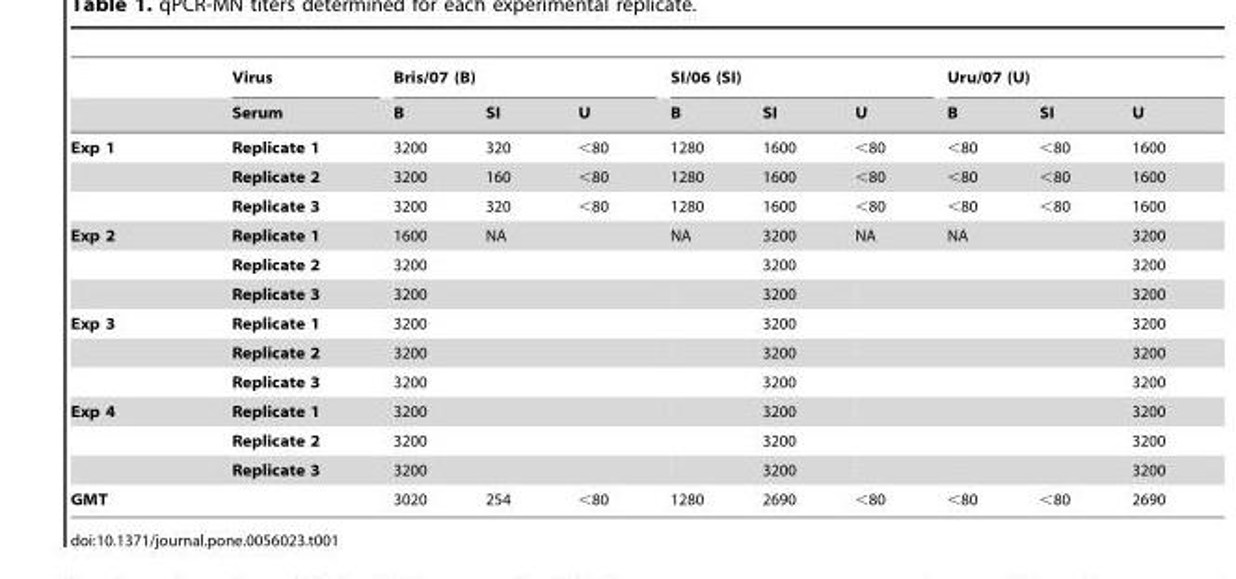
<table><thead><tr><td rowspan="2"></td><td rowspan="2">Virus Serum</td><td colspan="3">Bris/07 (B)</td><td colspan="3">SI/06 (SI)</td><td colspan="3">Uru/07 (U)</td></tr><tr><td>B</td><td>SI</td><td>U</td><td>B</td><td>SI</td><td>U</td><td>B</td><td>SI</td><td>U</td></tr></thead><tbody><tr><td rowspan="3">Exp 1</td><td>Replicate 1</td><td>3200</td><td>320</td><td>&lt;80</td><td>1280</td><td>1600</td><td>&lt;80</td><td>&lt;80</td><td>&lt;80</td><td>1600</td></tr><tr><td>Replicate 2</td><td>3200</td><td>160</td><td>&lt;80</td><td>1280</td><td>1600</td><td>&lt;80</td><td>&lt;80</td><td>&lt;80</td><td>1600</td></tr><tr><td>Replicate 3</td><td>3200</td><td>320</td><td>&lt;80</td><td>1280</td><td>1600</td><td>&lt;80</td><td>&lt;80</td><td>&lt;80</td><td>1600</td></tr><tr><td rowspan="3">Exp 2</td><td>Replicate 1</td><td>1600</td><td colspan="2">NA</td><td>NA</td><td>3200</td><td>NA</td><td colspan="2">NA</td><td>3200</td></tr><tr><td>Replicate 2</td><td>3200</td><td colspan="2"></td><td></td><td>3200</td><td></td><td colspan="2"></td><td>3200</td></tr><tr><td>Replicate 3</td><td>3200</td><td colspan="2"></td><td></td><td>3200</td><td></td><td colspan="2"></td><td>3200</td></tr><tr><td rowspan="3">Exp 3</td><td>Replicate 1</td><td>3200</td><td colspan="2"></td><td></td><td>3200</td><td></td><td colspan="2"></td><td>3200</td></tr><tr><td>Replicate 2</td><td>3200</td><td colspan="2"></td><td></td><td>3200</td><td></td><td colspan="2"></td><td>3200</td></tr><tr><td>Replicate 3</td><td>3200</td><td colspan="2"></td><td></td><td>3200</td><td></td><td colspan="2"></td><td>3200</td></tr><tr><td rowspan="3">Exp 4</td><td>Replicate 1</td><td>3200</td><td colspan="2"></td><td></td><td>3200</td><td></td><td colspan="2"></td><td>3200</td></tr><tr><td>Replicate 2</td><td>3200</td><td colspan="2"></td><td></td><td>3200</td><td></td><td colspan="2"></td><td>3200</td></tr><tr><td>Replicate 3</td><td>3200</td><td colspan="2"></td><td></td><td>3200</td><td></td><td colspan="2"></td><td>3200</td></tr><tr><td colspan="2">GMT</td><td>3020</td><td>254</td><td>&lt;80</td><td>1280</td><td>2690</td><td>&lt;80</td><td>&lt;80</td><td>&lt;80</td><td>2690</td></tr></tbody></table>